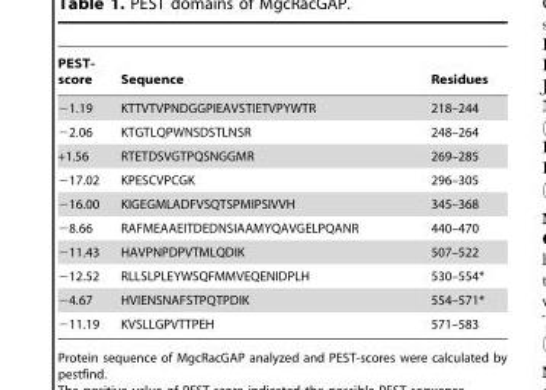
<table><thead><tr><td>PEST- score</td><td>Sequence</td><td>Residues</td></tr></thead><tbody><tr><td>−1.19</td><td>KTTVTVPNDGGPIEAVSTIETVPYWTR</td><td>218–244</td></tr><tr><td>−2.06</td><td>KTGTLQPWNSDSTLNSR</td><td>248–264</td></tr><tr><td>+1.56</td><td>RTETDSVGTPQSNGGMR</td><td>269–285</td></tr><tr><td>−17.02</td><td>KPESCVPCGK</td><td>296–305</td></tr><tr><td>−16.00</td><td>KIGEGMLADFVSQTSPMIPSIVVH</td><td>345–368</td></tr><tr><td>−8.66</td><td>RAFMEAAEITDEDNSIAAMYQAVGELPQANR</td><td>440–470</td></tr><tr><td>−11.43</td><td>HAVPNPDPVTMLQDIK</td><td>507–522</td></tr><tr><td>−12.52</td><td>RLLSLPLEYWSQFMMVEQENIDPLH</td><td>530–554*</td></tr><tr><td>−4.67</td><td>HVIENSNAFSTPQTPDIK</td><td>554–571*</td></tr><tr><td>−11.19</td><td>KVSLLGPVTTPEH</td><td>571–583</td></tr></tbody></table>